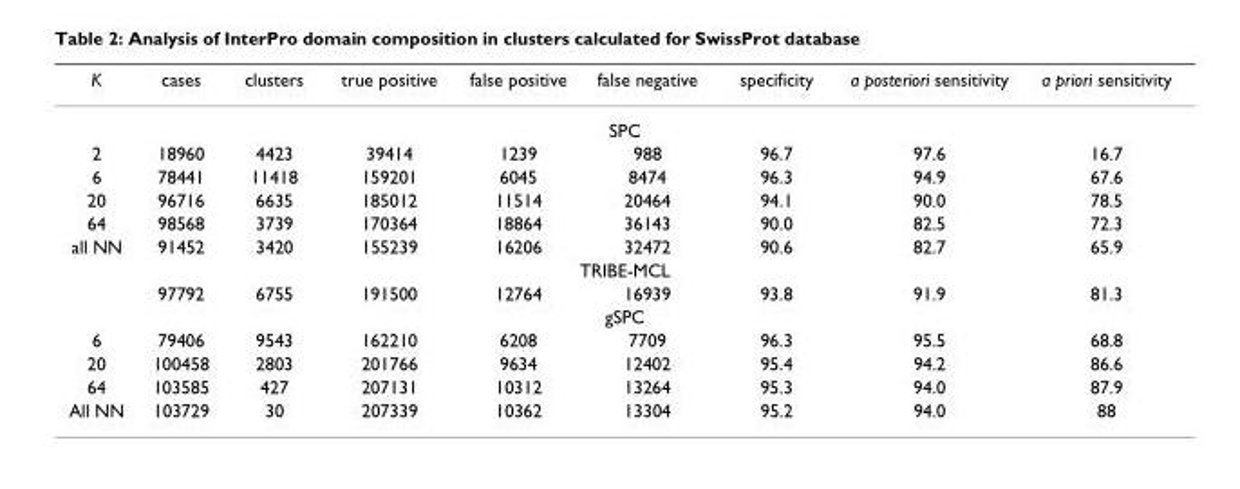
<table><thead><tr><td>K</td><td>cases</td><td>clusters</td><td>true positive</td><td>false positive</td><td>false negative</td><td>specificity</td><td>a posteriori sensitivity</td><td>a priori sensitivity</td></tr></thead><tbody><tr><td colspan="9">SPC</td></tr><tr><td>2</td><td>18960</td><td>4423</td><td>39414</td><td>1239</td><td>988</td><td>96.7</td><td>97.6</td><td>16.7</td></tr><tr><td>6</td><td>78441</td><td>11418</td><td>159201</td><td>6045</td><td>8474</td><td>96.3</td><td>94.9</td><td>67.6</td></tr><tr><td>20</td><td>96716</td><td>6635</td><td>185012</td><td>11514</td><td>20464</td><td>94.1</td><td>90.0</td><td>78.5</td></tr><tr><td>64</td><td>98568</td><td>3739</td><td>170364</td><td>18864</td><td>36143</td><td>90.0</td><td>82.5</td><td>72.3</td></tr><tr><td>all NN</td><td>91452</td><td>3420</td><td>155239</td><td>16206</td><td>32472</td><td>90.6</td><td>82.7</td><td>65.9</td></tr><tr><td colspan="9">TRIBE-MCL</td></tr><tr><td></td><td>97792</td><td>6755</td><td>191500</td><td>12764</td><td>16939</td><td>93.8</td><td>91.9</td><td>81.3</td></tr><tr><td colspan="9">gSPC</td></tr><tr><td>6</td><td>79406</td><td>9543</td><td>162210</td><td>6208</td><td>7709</td><td>96.3</td><td>95.5</td><td>68.8</td></tr><tr><td>20</td><td>100458</td><td>2803</td><td>201766</td><td>9634</td><td>12402</td><td>95.4</td><td>94.2</td><td>86.6</td></tr><tr><td>64</td><td>103585</td><td>427</td><td>207131</td><td>10312</td><td>13264</td><td>95.3</td><td>94.0</td><td>87.9</td></tr><tr><td>All NN</td><td>103729</td><td>30</td><td>207339</td><td>10362</td><td>13304</td><td>95.2</td><td>94.0</td><td>88</td></tr></tbody></table>